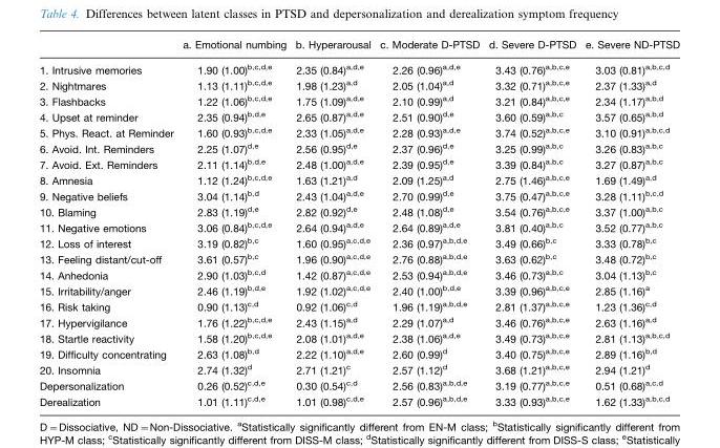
<table><thead><tr><td></td><td>a. Emotional numbing</td><td>b. Hyperarousal</td><td>c. Moderate D-PTSD</td><td>d. Severe D-PTSD</td><td>e. Severe ND-PTSD</td></tr></thead><tbody><tr><td>1. Intrusive memories</td><td>1.90 (1.00)<sup>b</sup>,<sup>c</sup>,<sup>d</sup>,<sup>e</sup></td><td>2.35 (0.84)<sup>a</sup>,<sup>d</sup>,<sup>e</sup></td><td>2.26 (0.96)<sup>a</sup>,<sup>d</sup>,<sup>e</sup></td><td>3.43 (0.76)<sup>a</sup>,<sup>b</sup>,<sup>c</sup>,<sup>e</sup></td><td>3.03 (0.81)<sup>a</sup>,<sup>b</sup>,<sup>c</sup>,<sup>d</sup></td></tr><tr><td>2. Nightmares</td><td>1.13 (1.11)<sup>b</sup>,<sup>c</sup>,<sup>d</sup>,<sup>e</sup></td><td>1.98 (1.23)<sup>a</sup>,<sup>d</sup></td><td>2.05 (1.04)<sup>a</sup>,<sup>d</sup></td><td>3.32 (0.71)<sup>a</sup>,<sup>b</sup>,<sup>c</sup>,<sup>e</sup></td><td>2.37 (1.33)<sup>a</sup>,<sup>d</sup></td></tr><tr><td>3. Flashbacks</td><td>1.22 (1.06)<sup>b</sup>,<sup>c</sup>,<sup>d</sup>,<sup>e</sup></td><td>1.75 (1.09)<sup>a</sup>,<sup>d</sup>,<sup>e</sup></td><td>2.10 (0.99)<sup>a</sup>,<sup>d</sup></td><td>3.21 (0.84)<sup>a</sup>,<sup>b</sup>,<sup>c</sup>,<sup>e</sup></td><td>2.34 (1.17)<sup>a</sup>,<sup>b</sup>,<sup>d</sup></td></tr><tr><td>4. Upset at reminder</td><td>2.35 (0.94)<sup>b</sup>,<sup>d</sup>,<sup>e</sup></td><td>2.65 (0.87)<sup>a</sup>,<sup>d</sup>,<sup>e</sup></td><td>2.51 (0.90)<sup>d</sup>,<sup>e</sup></td><td>3.60 (0.59)<sup>a</sup>,<sup>b</sup>,<sup>c</sup></td><td>3.57 (0.65)<sup>a</sup>,<sup>b</sup>,<sup>d</sup></td></tr><tr><td>5. Phys. React. at Reminder</td><td>1.60 (0.93)<sup>b</sup>,<sup>c</sup>,<sup>d</sup>,<sup>e</sup></td><td>2.33 (1.05)<sup>a</sup>,<sup>d</sup>,<sup>e</sup></td><td>2.28 (0.93)<sup>a</sup>,<sup>d</sup>,<sup>e</sup></td><td>3.74 (0.52)<sup>a</sup>,<sup>b</sup>,<sup>c</sup>,<sup>e</sup></td><td>3.10 (0.91)<sup>a</sup>,<sup>b</sup>,<sup>c</sup>,<sup>d</sup></td></tr><tr><td>6. Avoid. Int. Reminders</td><td>2.25 (1.07)<sup>d</sup>,<sup>e</sup></td><td>2.56 (0.95)<sup>d</sup>,<sup>e</sup></td><td>2.37 (0.96)<sup>d</sup>,<sup>e</sup></td><td>3.25 (0.99)<sup>a</sup>,<sup>b</sup>,<sup>c</sup></td><td>3.26 (0.83)<sup>a</sup>,<sup>b</sup>,<sup>c</sup></td></tr><tr><td>7. Avoid. Ext. Reminders</td><td>2.11 (1.14)<sup>b</sup>,<sup>d</sup>,<sup>e</sup></td><td>2.48 (1.00)<sup>a</sup>,<sup>d</sup>,<sup>e</sup></td><td>2.39 (0.95)<sup>d</sup>,<sup>e</sup></td><td>3.39 (0.84)<sup>a</sup>,<sup>b</sup>,<sup>c</sup></td><td>3.27 (0.87)<sup>a</sup>,<sup>b</sup>,<sup>c</sup></td></tr><tr><td>8. Amnesia</td><td>1.12 (1.24)<sup>b</sup>,<sup>c</sup>,<sup>d</sup>,<sup>e</sup></td><td>1.63 (1.21)<sup>a</sup>,<sup>d</sup></td><td>2.09 (1.25)<sup>a</sup>,<sup>d</sup></td><td>2.75 (1.46)<sup>a</sup>,<sup>b</sup>,<sup>c</sup>,<sup>e</sup></td><td>1.69 (1.49)<sup>a</sup>,<sup>d</sup></td></tr><tr><td>9. Negative beliefs</td><td>3.04 (1.14)<sup>b</sup>,<sup>d</sup></td><td>2.43 (1.04)<sup>a</sup>,<sup>d</sup>,<sup>e</sup></td><td>2.70 (0.99)<sup>d</sup>,<sup>e</sup></td><td>3.75 (0.47)<sup>a</sup>,<sup>b</sup>,<sup>c</sup>,<sup>e</sup></td><td>3.28 (1.11)<sup>b</sup>,<sup>c</sup>,<sup>d</sup></td></tr><tr><td>10. Blaming</td><td>2.83 (1.19)<sup>d</sup>,<sup>e</sup></td><td>2.82 (0.92)<sup>d</sup>,<sup>e</sup></td><td>2.48 (1.08)<sup>d</sup>,<sup>e</sup></td><td>3.54 (0.76)<sup>a</sup>,<sup>b</sup>,<sup>c</sup>,<sup>e</sup></td><td>3.37 (1.00)<sup>a</sup>,<sup>b</sup>,<sup>c</sup></td></tr><tr><td>11. Negative emotions</td><td>3.06 (0.84)<sup>b</sup>,<sup>c</sup>,<sup>d</sup>,<sup>e</sup></td><td>2.64 (0.94)<sup>a</sup>,<sup>d</sup>,<sup>e</sup></td><td>2.64 (0.89)<sup>a</sup>,<sup>d</sup>,<sup>e</sup></td><td>3.81 (0.40)<sup>a</sup>,<sup>b</sup>,<sup>c</sup></td><td>3.52 (0.77)<sup>a</sup>,<sup>b</sup>,<sup>c</sup></td></tr><tr><td>12. Loss of interest</td><td>3.19 (0.82)<sup>b</sup>,<sup>c</sup></td><td>1.60 (0.95)<sup>a</sup>,<sup>c</sup>,<sup>d</sup>,<sup>e</sup></td><td>2.36 (0.97)<sup>a</sup>,<sup>b</sup>,<sup>d</sup>,<sup>e</sup></td><td>3.49 (0.66)<sup>b</sup>,<sup>c</sup></td><td>3.33 (0.78)<sup>b</sup>,<sup>c</sup></td></tr><tr><td>13. Feeling distant/cut-off</td><td>3.61 (0.57)<sup>b</sup>,<sup>c</sup></td><td>1.96 (0.90)<sup>a</sup>,<sup>c</sup>,<sup>d</sup>,<sup>e</sup></td><td>2.76 (0.88)<sup>a</sup>,<sup>b</sup>,<sup>d</sup>,<sup>e</sup></td><td>3.63 (0.62)<sup>b</sup>,<sup>c</sup></td><td>3.48 (0.72)<sup>b</sup>,<sup>c</sup></td></tr><tr><td>14. Anhedonia</td><td>2.90 (1.03)<sup>b</sup>,<sup>c</sup>,<sup>d</sup></td><td>1.42 (0.87)<sup>a</sup>,<sup>c</sup>,<sup>d</sup>,<sup>e</sup></td><td>2.53 (0.94)<sup>a</sup>,<sup>b</sup>,<sup>d</sup>,<sup>e</sup></td><td>3.46 (0.73)<sup>a</sup>,<sup>b</sup>,<sup>c</sup></td><td>3.04 (1.13)<sup>b</sup>,<sup>c</sup></td></tr><tr><td>15. Irritability/anger</td><td>2.46 (1.19)<sup>b</sup>,<sup>d</sup>,<sup>e</sup></td><td>1.92 (1.02)<sup>a</sup>,<sup>c</sup>,<sup>d</sup>,<sup>e</sup></td><td>2.40 (1.00)<sup>b</sup>,<sup>d</sup>,<sup>e</sup></td><td>3.39 (0.96)<sup>a</sup>,<sup>b</sup>,<sup>c</sup>,<sup>e</sup></td><td>2.85 (1.16)<sup>a</sup></td></tr><tr><td>16. Risk taking</td><td>0.90 (1.13)<sup>c</sup>,<sup>d</sup></td><td>0.92 (1.06)<sup>c</sup>,<sup>d</sup></td><td>1.96 (1.19)<sup>a</sup>,<sup>b</sup>,<sup>d</sup>,<sup>e</sup></td><td>2.81 (1.37)<sup>a</sup>,<sup>b</sup>,<sup>c</sup>,<sup>e</sup></td><td>1.23 (1.36)<sup>c</sup>,<sup>d</sup></td></tr><tr><td>17. Hypervigilance</td><td>1.76 (1.22)<sup>b</sup>,<sup>c</sup>,<sup>d</sup>,<sup>e</sup></td><td>2.43 (1.15)<sup>a</sup>,<sup>d</sup></td><td>2.29 (1.07)<sup>a</sup>,<sup>d</sup></td><td>3.46 (0.76)<sup>a</sup>,<sup>b</sup>,<sup>c</sup>,<sup>e</sup></td><td>2.63 (1.16)<sup>a</sup>,<sup>d</sup></td></tr><tr><td>18. Startle reactivity</td><td>1.58 (1.20)<sup>b</sup>,<sup>c</sup>,<sup>d</sup>,<sup>e</sup></td><td>2.08 (1.01)<sup>a</sup>,<sup>d</sup>,<sup>e</sup></td><td>2.38 (1.06)<sup>a</sup>,<sup>d</sup>,<sup>e</sup></td><td>3.49 (0.73)<sup>a</sup>,<sup>b</sup>,<sup>c</sup>,<sup>e</sup></td><td>2.81 (1.13)<sup>a</sup>,<sup>b</sup>,<sup>c</sup>,<sup>d</sup></td></tr><tr><td>19. Difficulty concentrating</td><td>2.63 (1.08)<sup>b</sup>,<sup>d</sup></td><td>2.22 (1.10)<sup>a</sup>,<sup>d</sup>,<sup>e</sup></td><td>2.60 (0.99)<sup>d</sup></td><td>3.40 (0.75)<sup>a</sup>,<sup>b</sup>,<sup>c</sup>,<sup>e</sup></td><td>2.89 (1.16)<sup>b</sup>,<sup>d</sup></td></tr><tr><td>20. Insomnia</td><td>2.74 (1.32)<sup>d</sup></td><td>2.71 (1.21)<sup>c</sup></td><td>2.57 (1.12)<sup>d</sup></td><td>3.68 (1.21)<sup>a</sup>,<sup>b</sup>,<sup>c</sup>,<sup>e</sup></td><td>2.94 (1.21)<sup>d</sup></td></tr><tr><td>Depersonalization</td><td>0.26 (0.52)<sup>c</sup>,<sup>d</sup>,<sup>e</sup></td><td>0.30 (0.54)<sup>c</sup>,<sup>d</sup></td><td>2.56 (0.83)<sup>a</sup>,<sup>b</sup>,<sup>d</sup>,<sup>e</sup></td><td>3.19 (0.77)<sup>a</sup>,<sup>b</sup>,<sup>c</sup>,<sup>e</sup></td><td>0.51 (0.68)<sup>a</sup>,<sup>c</sup>,<sup>d</sup></td></tr><tr><td>Derealization</td><td>1.01 (1.11)<sup>c</sup>,<sup>d</sup>,<sup>e</sup></td><td>1.01 (0.98)<sup>c</sup>,<sup>d</sup>,<sup>e</sup></td><td>2.57 (0.96)<sup>a</sup>,<sup>b</sup>,<sup>d</sup>,<sup>e</sup></td><td>3.33 (0.93)<sup>a</sup>,<sup>b</sup>,<sup>c</sup>,<sup>e</sup></td><td>1.62 (1.33)<sup>a</sup>,<sup>b</sup>,<sup>c</sup>,<sup>d</sup></td></tr></tbody></table>